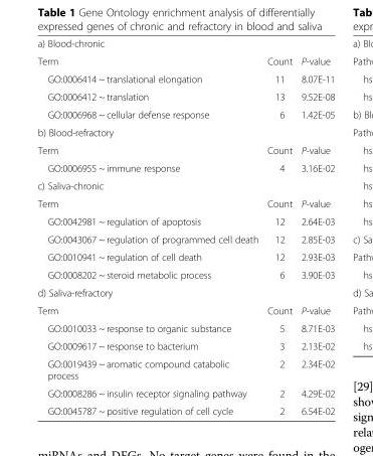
<table><tbody><tr><td colspan="3">a) Blood-chronic</td></tr><tr><td>Term</td><td>Count</td><td>P-value</td></tr><tr><td>GO:0006414 ~ translational elongation</td><td>11</td><td>8.07E-11</td></tr><tr><td>GO:0006412 ~ translation</td><td>13</td><td>9.52E-08</td></tr><tr><td>GO:0006968 ~ cellular defense response</td><td>6</td><td>1.42E-05</td></tr><tr><td colspan="3">b) Blood-refractory</td></tr><tr><td>Term</td><td>Count</td><td>P-value</td></tr><tr><td>GO:0006955 ~ immune response</td><td>4</td><td>3.16E-02</td></tr><tr><td colspan="3">c) Saliva-chronic</td></tr><tr><td>Term</td><td>Count</td><td>P-value</td></tr><tr><td>GO:0042981 ~ regulation of apoptosis</td><td>12</td><td>2.64E-03</td></tr><tr><td>GO:0043067 ~ regulation of programmed cell death</td><td>12</td><td>2.85E-03</td></tr><tr><td>GO:0010941 ~ regulation of cell death</td><td>12</td><td>2.93E-03</td></tr><tr><td>GO:0008202 ~ steroid metabolic process</td><td>6</td><td>3.90E-03</td></tr><tr><td colspan="3">d) Saliva-refractory</td></tr><tr><td>Term</td><td>Count</td><td>P-value</td></tr><tr><td>GO:0010033 ~ response to organic substance</td><td>5</td><td>8.71E-03</td></tr><tr><td>GO:0009617 ~ response to bacterium</td><td>3</td><td>2.13E-02</td></tr><tr><td>GO:0019439 ~ aromatic compound catabolic process</td><td>2</td><td>2.34E-02</td></tr><tr><td>GO:0008286 ~ insulin receptor signaling pathway</td><td>2</td><td>4.29E-02</td></tr><tr><td>GO:0045787 ~ positive regulation of cell cycle</td><td>2</td><td>6.54E-02</td></tr></tbody></table>